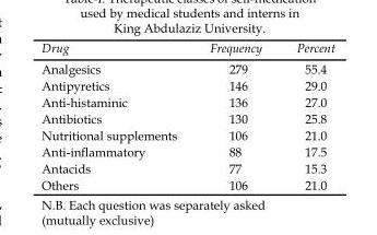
<table><thead><tr><td>Drug</td><td>Frequency</td><td>Percent</td></tr></thead><tbody><tr><td>Analgesics</td><td>279</td><td>55.4</td></tr><tr><td>Antipyretics</td><td>146</td><td>29.0</td></tr><tr><td>Anti-histaminic</td><td>136</td><td>27.0</td></tr><tr><td>Antibiotics</td><td>130</td><td>25.8</td></tr><tr><td>Nutritional supplements</td><td>106</td><td>21.0</td></tr><tr><td>Anti-inflammatory</td><td>88</td><td>17.5</td></tr><tr><td>Antacids</td><td>77</td><td>15.3</td></tr><tr><td>Others</td><td>106</td><td>21.0</td></tr></tbody></table>